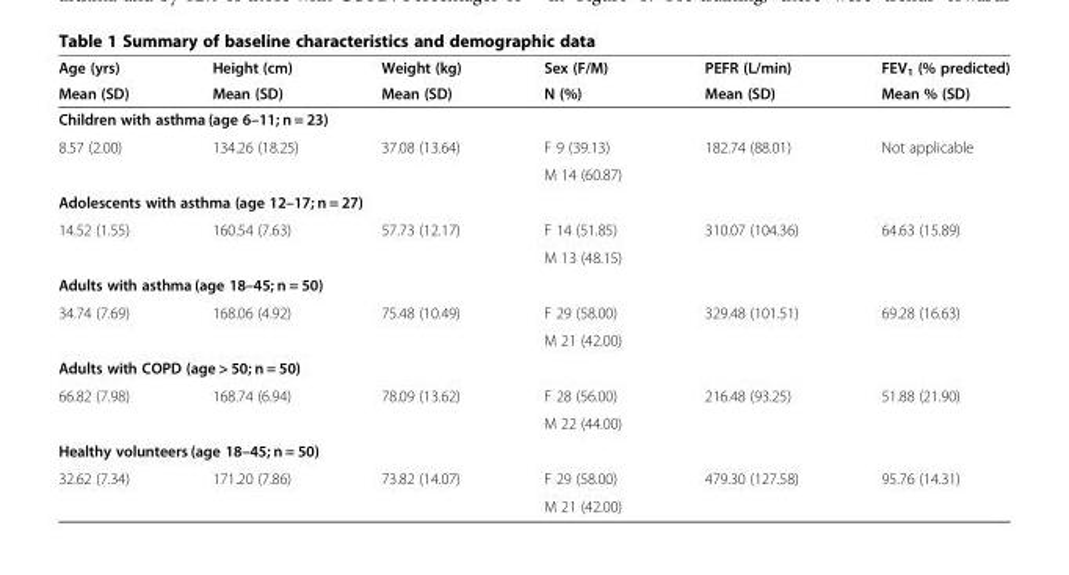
<table><thead><tr><td rowspan="2">Age (yrs) Mean (SD)</td><td rowspan="2">Height (cm) Mean (SD)</td><td rowspan="2">Weight (kg) Mean (SD)</td><td rowspan="2">Sex (F/M) N (%)</td><td rowspan="2">PEFR (L/min) Mean (SD)</td><td rowspan="2">FEV<sub>1</sub> (% predicted) Mean % (SD)</td></tr><tr></tr></thead><tbody><tr><td colspan="6">Children with asthma (age 6–11; n = 23)</td></tr><tr><td rowspan="2">8.57 (2.00)</td><td rowspan="2">134.26 (18.25)</td><td rowspan="2">37.08 (13.64)</td><td>F 9 (39.13)</td><td rowspan="2">182.74 (88.01)</td><td rowspan="2">Not applicable</td></tr><tr><td>M 14 (60.87)</td></tr><tr><td colspan="6">Adolescents with asthma (age 12–17; n = 27)</td></tr><tr><td rowspan="2">14.52 (1.55)</td><td rowspan="2">160.54 (7.63)</td><td rowspan="2">57.73 (12.17)</td><td>F 14 (51.85)</td><td rowspan="2">310.07 (104.36)</td><td rowspan="2">64.63 (15.89)</td></tr><tr><td>M 13 (48.15)</td></tr><tr><td colspan="6">Adults with asthma (age 18–45; n = 50)</td></tr><tr><td rowspan="2">34.74 (7.69)</td><td rowspan="2">168.06 (4.92)</td><td rowspan="2">75.48 (10.49)</td><td>F 29 (58.00)</td><td rowspan="2">329.48 (101.51)</td><td rowspan="2">69.28 (16.63)</td></tr><tr><td>M 21 (42.00)</td></tr><tr><td colspan="6">Adults with COPD (age &gt; 50; n = 50)</td></tr><tr><td rowspan="2">66.82 (7.98)</td><td rowspan="2">168.74 (6.94)</td><td rowspan="2">78.09 (13.62)</td><td>F 28 (56.00)</td><td rowspan="2">216.48 (93.25)</td><td rowspan="2">51.88 (21.90)</td></tr><tr><td>M 22 (44.00)</td></tr><tr><td colspan="6">Healthy volunteers (age 18–45; n = 50)</td></tr><tr><td rowspan="2">32.62 (7.34)</td><td rowspan="2">171.20 (7.86)</td><td rowspan="2">73.82 (14.07)</td><td>F 29 (58.00)</td><td rowspan="2">479.30 (127.58)</td><td rowspan="2">95.76 (14.31)</td></tr><tr><td>M 21 (42.00)</td></tr></tbody></table>